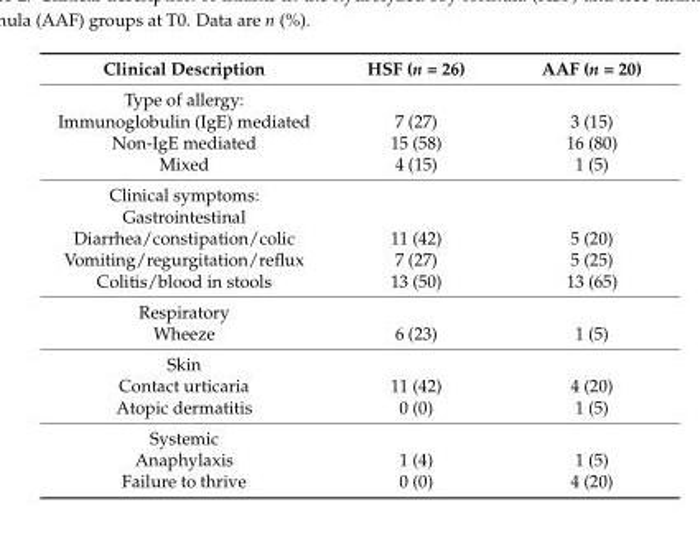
<table><thead><tr><td>Clinical Description</td><td>HSF (n = 26)</td><td>AAF (n = 20)</td></tr></thead><tbody><tr><td colspan="3">Type of allergy:</td></tr><tr><td>Immunoglobulin (IgE) mediated</td><td>7 (27)</td><td>3 (15)</td></tr><tr><td>Non-IgE mediated</td><td>15 (58)</td><td>16 (80)</td></tr><tr><td>Mixed</td><td>4 (15)</td><td>1 (5)</td></tr><tr><td colspan="3">Clinical symptoms:</td></tr><tr><td colspan="3">Gastrointestinal</td></tr><tr><td>Diarrhea/constipation/colic</td><td>11 (42)</td><td>5 (20)</td></tr><tr><td>Vomiting/regurgitation/reflux</td><td>7 (27)</td><td>5 (25)</td></tr><tr><td>Colitis/blood in stools</td><td>13 (50)</td><td>13 (65)</td></tr><tr><td colspan="3">Respiratory</td></tr><tr><td>Wheeze</td><td>6 (23)</td><td>1 (5)</td></tr><tr><td colspan="3">Skin</td></tr><tr><td>Contact urticaria</td><td>11 (42)</td><td>4 (20)</td></tr><tr><td>Atopic dermatitis</td><td>0 (0)</td><td>1 (5)</td></tr><tr><td colspan="3">Systemic</td></tr><tr><td>Anaphylaxis</td><td>1 (4)</td><td>1 (5)</td></tr><tr><td>Failure to thrive</td><td>0 (0)</td><td>4 (20)</td></tr></tbody></table>